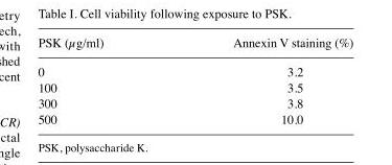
<table><thead><tr><td>PSK (µg/ml)</td><td>Annexin V staining (%)</td></tr></thead><tbody><tr><td>0</td><td>3.2</td></tr><tr><td>100</td><td>3.5</td></tr><tr><td>300</td><td>3.8</td></tr><tr><td>500</td><td>10.0</td></tr></tbody></table>